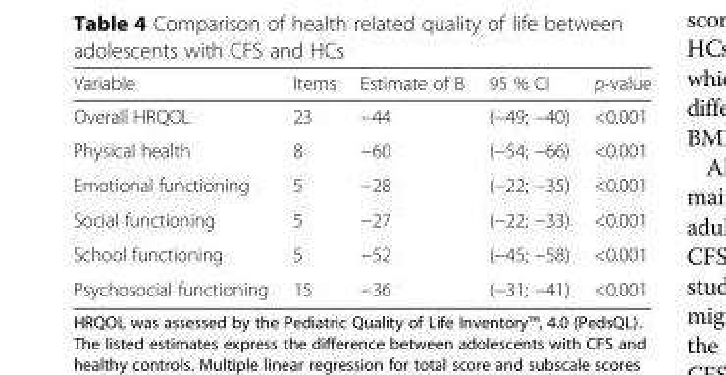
<table><thead><tr><td>Variable</td><td>Items</td><td>Estimate of B</td><td>95 % CI</td><td>p-value</td></tr></thead><tbody><tr><td>Overall HRQOL</td><td>23</td><td>−44</td><td>(−49; −40)</td><td>&lt;0.001</td></tr><tr><td>Physical health</td><td>8</td><td>−60</td><td>(−54; −66)</td><td>&lt;0.001</td></tr><tr><td>Emotional functioning</td><td>5</td><td>−28</td><td>(−22; −35)</td><td>&lt;0.001</td></tr><tr><td>Social functioning</td><td>5</td><td>−27</td><td>(−22; −33)</td><td>&lt;0.001</td></tr><tr><td>School functioning</td><td>5</td><td>−52</td><td>(−45; −58)</td><td>&lt;0.001</td></tr><tr><td>Psychosocial functioning</td><td>15</td><td>−36</td><td>(−31; −41)</td><td>&lt;0.001</td></tr></tbody></table>